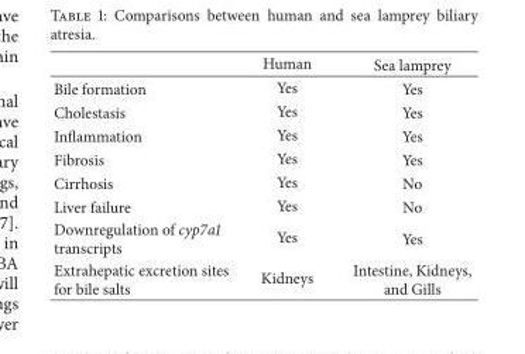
<table><thead><tr><td></td><td>Human</td><td>Sea lamprey</td></tr></thead><tbody><tr><td>Bile formation</td><td>Yes</td><td>Yes</td></tr><tr><td>Cholestasis</td><td>Yes</td><td>Yes</td></tr><tr><td>Inflammation</td><td>Yes</td><td>Yes</td></tr><tr><td>Fibrosis</td><td>Yes</td><td>Yes</td></tr><tr><td>Cirrhosis</td><td>Yes</td><td>No</td></tr><tr><td>Liver failure</td><td>Yes</td><td>No</td></tr><tr><td>Downregulation of cyp7a1 transcripts</td><td>Yes</td><td>Yes</td></tr><tr><td>Extrahepatic excretion sites for bile salts</td><td>Kidneys</td><td>Intestine, Kidneys, and Gills</td></tr></tbody></table>